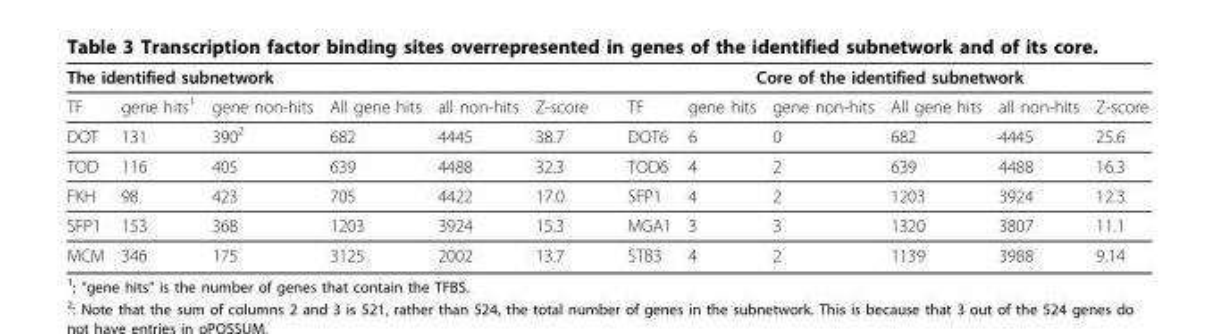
<table><thead><tr><td colspan="6">The identified subnetwork</td><td colspan="6">Core of the identified subnetwork</td></tr><tr><td>TF</td><td>gene hits<sup>1</sup></td><td>gene non-hits</td><td>All gene hits</td><td>all non-hits</td><td>Z-score</td><td>TF</td><td>gene hits</td><td>gene non-hits</td><td>All gene hits</td><td>all non-hits</td><td>Z-score</td></tr></thead><tbody><tr><td>DOT</td><td>131</td><td>390<sup>2</sup></td><td>682</td><td>4445</td><td>38.7</td><td>DOT6</td><td>6</td><td>0</td><td>682</td><td>4445</td><td>25.6</td></tr><tr><td>TOD</td><td>116</td><td>405</td><td>639</td><td>4488</td><td>32.3</td><td>TOD6</td><td>4</td><td>2</td><td>639</td><td>4488</td><td>16.3</td></tr><tr><td>FKH</td><td>98</td><td>423</td><td>705</td><td>4422</td><td>17.0</td><td>SFP1</td><td>4</td><td>2</td><td>1203</td><td>3924</td><td>12.3</td></tr><tr><td>SFP1</td><td>153</td><td>368</td><td>1203</td><td>3924</td><td>15.3</td><td>MGA1</td><td>3</td><td>3</td><td>1320</td><td>3807</td><td>11.1</td></tr><tr><td>MCM</td><td>346</td><td>175</td><td>3125</td><td>2002</td><td>13.7</td><td>STB3</td><td>4</td><td>2</td><td>1139</td><td>3988</td><td>9.14</td></tr></tbody></table>